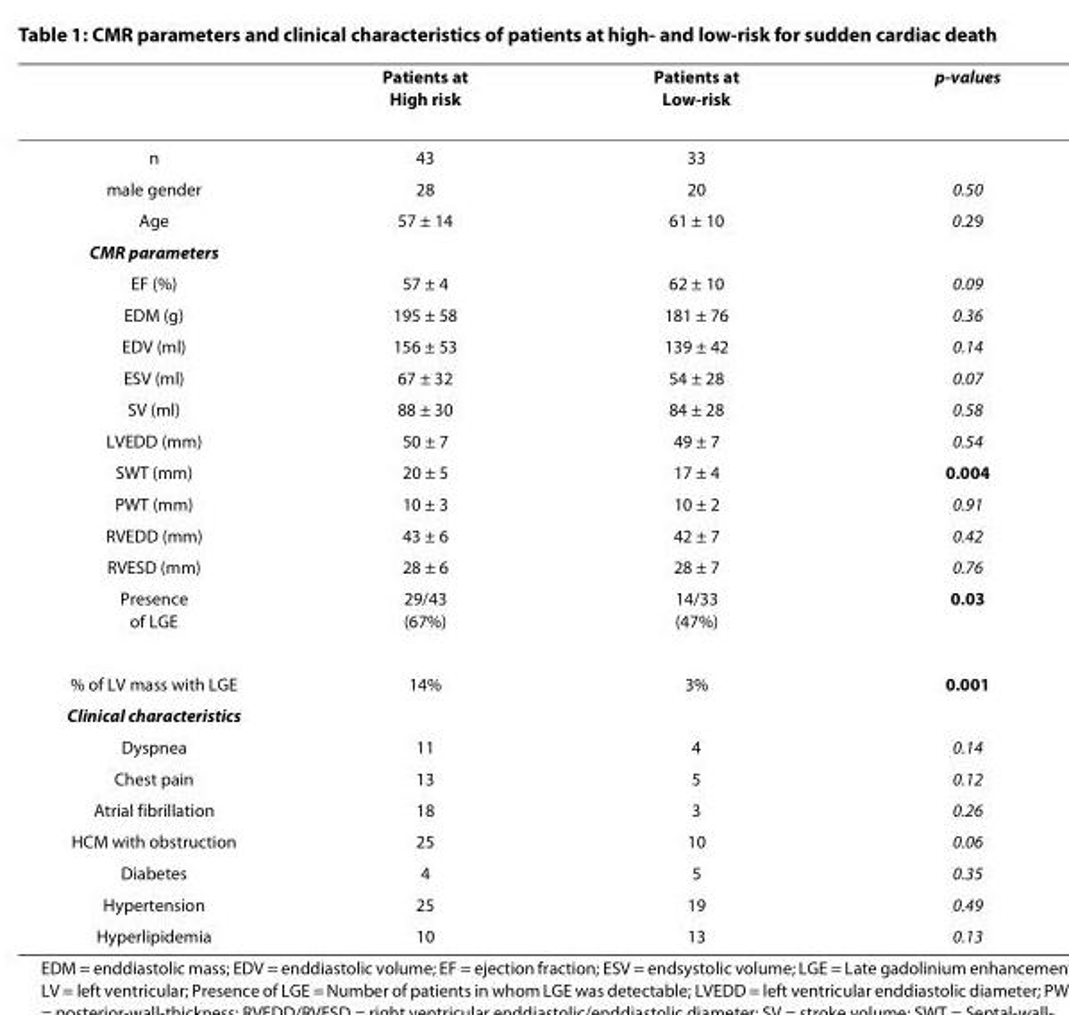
<table><thead><tr><td></td><td>Patients at High risk</td><td>Patients at Low-risk</td><td>p-values</td></tr></thead><tbody><tr><td>n</td><td>43</td><td>33</td><td></td></tr><tr><td>male gender</td><td>28</td><td>20</td><td>0.50</td></tr><tr><td>Age</td><td>57 ± 14</td><td>61 ± 10</td><td>0.29</td></tr><tr><td colspan="4">CMR parameters</td></tr><tr><td>EF (%)</td><td>57 ± 4</td><td>62 ± 10</td><td>0.09</td></tr><tr><td>EDM (g)</td><td>195 ± 58</td><td>181 ± 76</td><td>0.36</td></tr><tr><td>EDV (ml)</td><td>156 ± 53</td><td>139 ± 42</td><td>0.14</td></tr><tr><td>ESV (ml)</td><td>67 ± 32</td><td>54 ± 28</td><td>0.07</td></tr><tr><td>SV (ml)</td><td>88 ± 30</td><td>84 ± 28</td><td>0.58</td></tr><tr><td>LVEDD (mm)</td><td>50 ± 7</td><td>49 ± 7</td><td>0.54</td></tr><tr><td>SWT (mm)</td><td>20 ± 5</td><td>17 ± 4</td><td>0.004</td></tr><tr><td>PWT (mm)</td><td>10 ± 3</td><td>10 ± 2</td><td>0.91</td></tr><tr><td>RVEDD (mm)</td><td>43 ± 6</td><td>42 ± 7</td><td>0.42</td></tr><tr><td>RVESD (mm)</td><td>28 ± 6</td><td>28 ± 7</td><td>0.76</td></tr><tr><td>Presence of LGE</td><td>29/43 (67%)</td><td>14/33 (47%)</td><td>0.03</td></tr><tr><td>% of LV mass with LGE</td><td>14%</td><td>3%</td><td>0.001</td></tr><tr><td colspan="4">Clinical characteristics</td></tr><tr><td>Dyspnea</td><td>11</td><td>4</td><td>0.14</td></tr><tr><td>Chest pain</td><td>13</td><td>5</td><td>0.12</td></tr><tr><td>Atrial fibrillation</td><td>18</td><td>3</td><td>0.26</td></tr><tr><td>HCM with obstruction</td><td>25</td><td>10</td><td>0.06</td></tr><tr><td>Diabetes</td><td>4</td><td>5</td><td>0.35</td></tr><tr><td>Hypertension</td><td>25</td><td>19</td><td>0.49</td></tr><tr><td>Hyperlipidemia</td><td>10</td><td>13</td><td>0.13</td></tr></tbody></table>